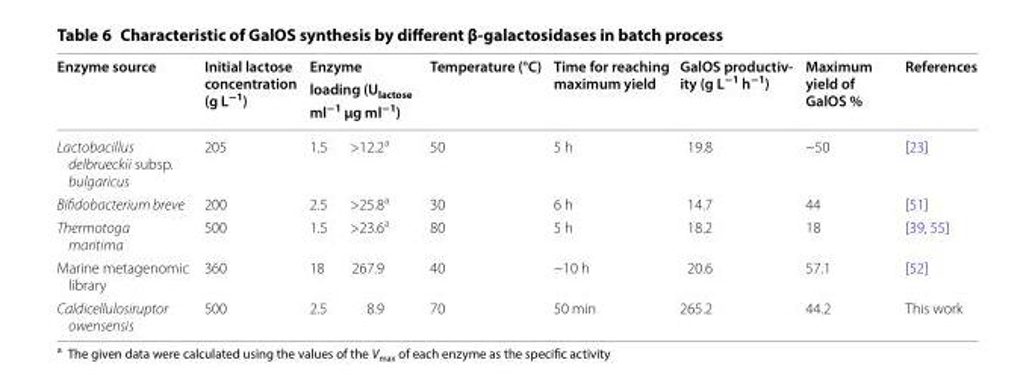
<table><thead><tr><td rowspan="2">Enzyme source Lactobacillus delbrueckii subsp. bulgaricus</td><td rowspan="2">Initial lactose concentration (g L<sup>−1</sup>) 205</td><td colspan="2">Enzyme loading (U<sub>lactose</sub> ml<sup>−1</sup> μg ml<sup>−1</sup>)</td><td rowspan="2">Temperature (°C) 50</td><td rowspan="2">Time for reaching maximum yield 5 h</td><td rowspan="2">GalOS productiv‑ ity (g L−1 h−1) 19.8</td><td rowspan="2">Maximum yield of GalOS % ~50</td><td rowspan="2">References [23]</td></tr><tr><td>1.5</td><td>&gt;12.2<sup>a</sup></td></tr></thead><tbody><tr><td>Bifidobacterium breve</td><td>200</td><td>2.5</td><td>&gt;25.8<sup>a</sup></td><td>30</td><td>6 h</td><td>14.7</td><td>44</td><td>[51]</td></tr><tr><td>Thermotoga maritima</td><td>500</td><td>1.5</td><td>&gt;23.6<sup>a</sup></td><td>80</td><td>5 h</td><td>18.2</td><td>18</td><td>[39, 55]</td></tr><tr><td>Marine metagenomic library</td><td>360</td><td>18</td><td>267.9</td><td>40</td><td>~10 h</td><td>20.6</td><td>57.1</td><td>[52]</td></tr><tr><td>Caldicellulosiruptor owensensis</td><td>500</td><td>2.5</td><td>8.9</td><td>70</td><td>50 min</td><td>265.2</td><td>44.2</td><td>This work</td></tr></tbody></table>